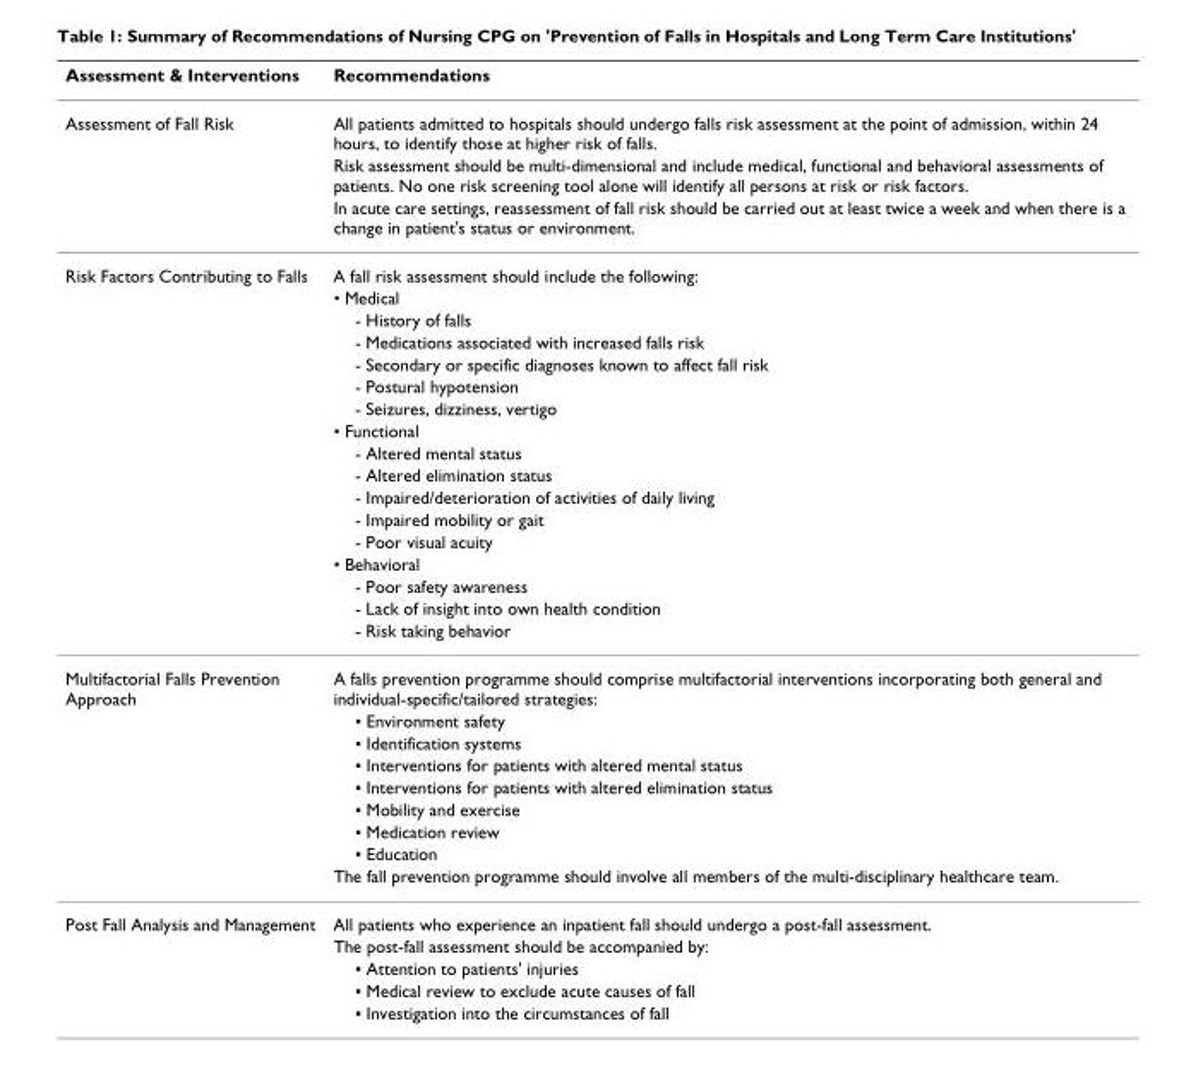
<table><thead><tr><td>Assessment &amp; Interventions</td><td>Recommendations</td></tr></thead><tbody><tr><td rowspan="3">Assessment of Fall Risk</td><td>All patients admitted to hospitals should undergo falls risk assessment at the point of admission, within 24 hours, to identify those at higher risk of falls.</td></tr><tr><td>Risk assessment should be multi-dimensional and include medical, functional and behavioral assessments of patients. No one risk screening tool alone will identify all persons at risk or risk factors.</td></tr><tr><td>In acute care settings, reassessment of fall risk should be carried out at least twice a week and when there is a change in patient&#x27;s status or environment.</td></tr><tr><td rowspan="17">Risk Factors Contributing to Falls</td><td>A fall risk assessment should include the following:</td></tr><tr><td>• Medical</td></tr><tr><td>- History of falls</td></tr><tr><td>- Medications associated with increased falls risk</td></tr><tr><td>- Secondary or specific diagnoses known to affect fall risk</td></tr><tr><td>- Postural hypotension</td></tr><tr><td>- Seizures, dizziness, vertigo</td></tr><tr><td>• Functional</td></tr><tr><td>- Altered mental status</td></tr><tr><td>- Altered elimination status</td></tr><tr><td>- Impaired/deterioration of activities of daily living</td></tr><tr><td>- Impaired mobility or gait</td></tr><tr><td>- Poor visual acuity</td></tr><tr><td>• Behavioral</td></tr><tr><td>- Poor safety awareness</td></tr><tr><td>- Lack of insight into own health condition</td></tr><tr><td>- Risk taking behavior</td></tr><tr><td rowspan="9">Multifactorial Falls Prevention Approach</td><td>A falls prevention programme should comprise multifactorial interventions incorporating both general and individual-specific/tailored strategies:</td></tr><tr><td>▪ Environment safety</td></tr><tr><td>▪ Identification systems</td></tr><tr><td>▪ Interventions for patients with altered mental status</td></tr><tr><td>▪ Interventions for patients with altered elimination status</td></tr><tr><td>▪ Mobility and exercise</td></tr><tr><td>▪ Medication review</td></tr><tr><td>▪ Education</td></tr><tr><td>The fall prevention programme should involve all members of the multi-disciplinary healthcare team.</td></tr><tr><td rowspan="5">Post Fall Analysis and Management</td><td>All patients who experience an inpatient fall should undergo a post-fall assessment.</td></tr><tr><td>The post-fall assessment should be accompanied by:</td></tr><tr><td>▪ Attention to patients&#x27; injuries</td></tr><tr><td>▪ Medical review to exclude acute causes of fall</td></tr><tr><td>▪ Investigation into the circumstances of fall</td></tr></tbody></table>